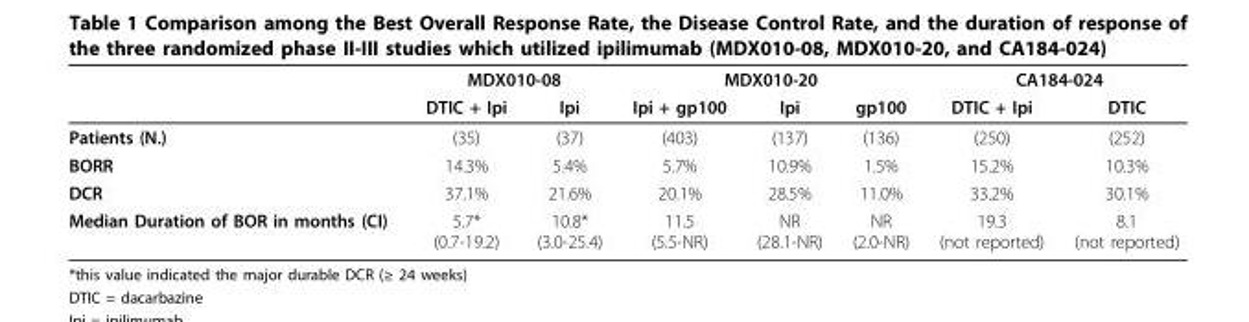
<table><thead><tr><td rowspan="2"></td><td colspan="2">MDX010-08</td><td colspan="3">MDX010-20</td><td colspan="2">CA184-024</td></tr><tr><td>DTIC + Ipi</td><td>Ipi</td><td>Ipi + gp100</td><td>Ipi</td><td>gp100</td><td>DTIC + Ipi</td><td>DTIC</td></tr></thead><tbody><tr><td>Patients (N.)</td><td>(35)</td><td>(37)</td><td>(403)</td><td>(137)</td><td>(136)</td><td>(250)</td><td>(252)</td></tr><tr><td>BORR</td><td>14.3%</td><td>5.4%</td><td>5.7%</td><td>10.9%</td><td>1.5%</td><td>15.2%</td><td>10.3%</td></tr><tr><td>DCR</td><td>37.1%</td><td>21.6%</td><td>20.1%</td><td>28.5%</td><td>11.0%</td><td>33.2%</td><td>30.1%</td></tr><tr><td>Median Duration of BOR in months (CI)</td><td>5.7* (0.7-19.2)</td><td>10.8* (3.0-25.4)</td><td>11.5 (5.5-NR)</td><td>NR (28.1-NR)</td><td>NR (2.0-NR)</td><td>19.3 (not reported)</td><td>8.1 (not reported)</td></tr></tbody></table>